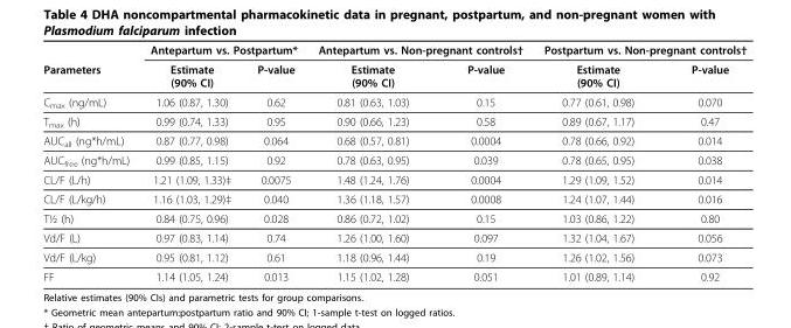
<table><thead><tr><td rowspan="2">Parameters</td><td colspan="2">Antepartum vs. Postpartum*</td><td colspan="2">Antepartum vs. Non-pregnant controls†</td><td colspan="2">Postpartum vs. Non-pregnant controls†</td></tr><tr><td>Estimate (90% CI)</td><td>P-value</td><td>Estimate (90% CI)</td><td>P-value</td><td>Estimate (90% CI)</td><td>P-value</td></tr></thead><tbody><tr><td>C<sub>max</sub> (ng/mL)</td><td>1.06 (0.87, 1.30)</td><td>0.62</td><td>0.81 (0.63, 1.03)</td><td>0.15</td><td>0.77 (0.61, 0.98)</td><td>0.070</td></tr><tr><td>T<sub>max</sub> (h)</td><td>0.99 (0.74, 1.33)</td><td>0.95</td><td>0.90 (0.66, 1.23)</td><td>0.58</td><td>0.89 (0.67, 1.17)</td><td>0.47</td></tr><tr><td>AUC<sub>all</sub> (ng*h/mL)</td><td>0.87 (0.77, 0.98)</td><td>0.064</td><td>0.68 (0.57, 0.81)</td><td>0.0004</td><td>0.78 (0.66, 0.92)</td><td>0.014</td></tr><tr><td>AUC<sub>free</sub> (ng*h/mL)</td><td>0.99 (0.85, 1.15)</td><td>0.92</td><td>0.78 (0.63, 0.95)</td><td>0.039</td><td>0.78 (0.65, 0.95)</td><td>0.038</td></tr><tr><td>CL/F (L/h)</td><td>1.21 (1.09, 1.33)‡</td><td>0.0075</td><td>1.48 (1.24, 1.76)</td><td>0.0004</td><td>1.29 (1.09, 1.52)</td><td>0.014</td></tr><tr><td>CL/F (L/kg/h)</td><td>1.16 (1.03, 1.29)‡</td><td>0.040</td><td>1.36 (1.18, 1.57)</td><td>0.0008</td><td>1.24 (1.07, 1.44)</td><td>0.016</td></tr><tr><td>T½ (h)</td><td>0.84 (0.75, 0.96)</td><td>0.028</td><td>0.86 (0.72, 1.02)</td><td>0.15</td><td>1.03 (0.86, 1.22)</td><td>0.80</td></tr><tr><td>Vd/F (L)</td><td>0.97 (0.83, 1.14)</td><td>0.74</td><td>1.26 (1.00, 1.60)</td><td>0.097</td><td>1.32 (1.04, 1.67)</td><td>0.056</td></tr><tr><td>Vd/F (L/kg)</td><td>0.95 (0.81, 1.12)</td><td>0.61</td><td>1.18 (0.96, 1.44)</td><td>0.19</td><td>1.26 (1.02, 1.56)</td><td>0.073</td></tr><tr><td>FF</td><td>1.14 (1.05, 1.24)</td><td>0.013</td><td>1.15 (1.02, 1.28)</td><td>0.051</td><td>1.01 (0.89, 1.14)</td><td>0.92</td></tr></tbody></table>